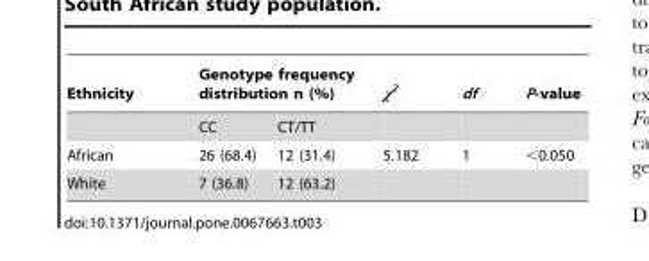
<table><thead><tr><td rowspan="2">Ethnicity</td><td colspan="2">Genotype frequency distribution n (%)</td><td rowspan="2">χ<sup>2</sup></td><td rowspan="2">df</td><td rowspan="2">P-value</td></tr><tr><td>CC</td><td>CT/TT</td></tr></thead><tbody><tr><td>African</td><td>26 (68.4)</td><td>12 (31.4)</td><td>5.182</td><td>1</td><td>&lt;0.050</td></tr><tr><td>White</td><td>7 (36.8)</td><td>12 (63.2)</td><td></td><td></td><td></td></tr></tbody></table>